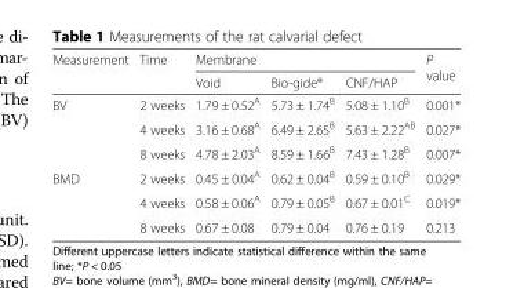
<table><thead><tr><td rowspan="2">Measurement</td><td rowspan="2">Time</td><td colspan="3">Membrane</td><td rowspan="2">P value</td></tr><tr><td>Void</td><td>Bio-gide®</td><td>CNF/HAP</td></tr></thead><tbody><tr><td rowspan="3">BV</td><td>2 weeks</td><td>1.79 ± 0.52<sup>A</sup></td><td>5.73 ± 1.74<sup>B</sup></td><td>5.08 ± 1.10<sup>B</sup></td><td>0.001*</td></tr><tr><td>4 weeks</td><td>3.16 ± 0.68<sup>A</sup></td><td>6.49 ± 2.65<sup>B</sup></td><td>5.63 ± 2.22<sup>AB</sup></td><td>0.027*</td></tr><tr><td>8 weeks</td><td>4.78 ± 2.03<sup>A</sup></td><td>8.59 ± 1.66<sup>B</sup></td><td>7.43 ± 1.28<sup>B</sup></td><td>0.007*</td></tr><tr><td rowspan="3">BMD</td><td>2 weeks</td><td>0.45 ± 0.04<sup>A</sup></td><td>0.62 ± 0.04<sup>B</sup></td><td>0.59 ± 0.10<sup>B</sup></td><td>0.029*</td></tr><tr><td>4 weeks</td><td>0.58 ± 0.06<sup>A</sup></td><td>0.79 ± 0.05<sup>B</sup></td><td>0.67 ± 0.01<sup>C</sup></td><td>0.019*</td></tr><tr><td>8 weeks</td><td>0.67 ± 0.08</td><td>0.79 ± 0.04</td><td>0.76 ± 0.19</td><td>0.213</td></tr></tbody></table>